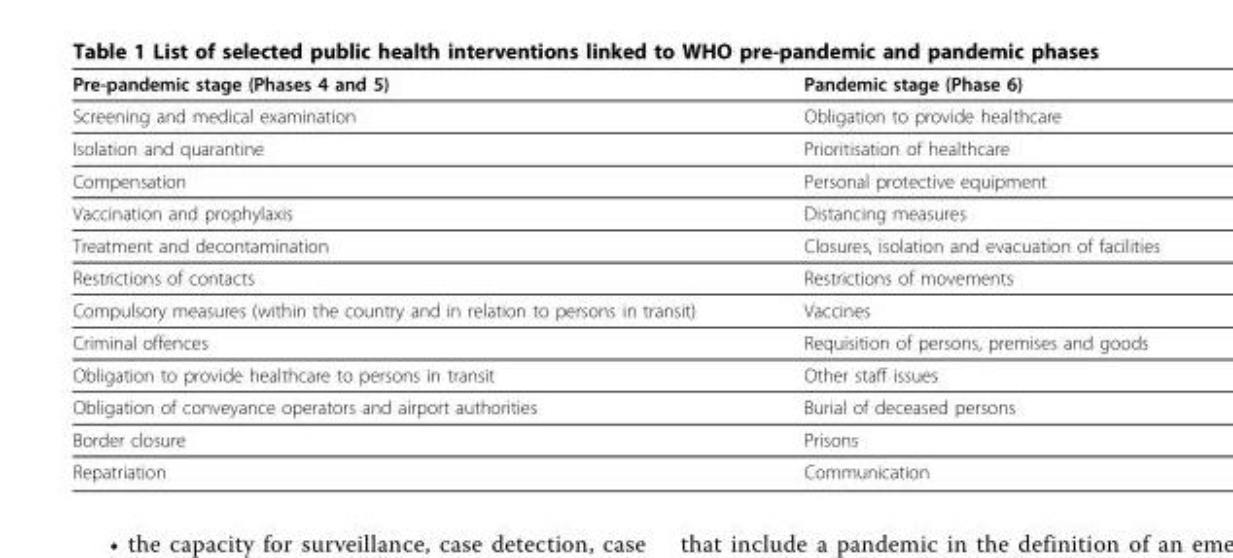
<table><thead><tr><td>Pre-pandemic stage (Phases 4 and 5)</td><td>Pandemic stage (Phase 6)</td></tr></thead><tbody><tr><td>Screening and medical examination</td><td>Obligation to provide healthcare</td></tr><tr><td>Isolation and quarantine</td><td>Prioritisation of healthcare</td></tr><tr><td>Compensation</td><td>Personal protective equipment</td></tr><tr><td>Vaccination and prophylaxis</td><td>Distancing measures</td></tr><tr><td>Treatment and decontamination</td><td>Closures, isolation and evacuation of facilities</td></tr><tr><td>Restrictions of contacts</td><td>Restrictions of movements</td></tr><tr><td>Compulsory measures (within the country and in relation to persons in transit)</td><td>Vaccines</td></tr><tr><td>Criminal offences</td><td>Requisition of persons, premises and goods</td></tr><tr><td>Obligation to provide healthcare to persons in transit</td><td>Other staff issues</td></tr><tr><td>Obligation of conveyance operators and airport authorities</td><td>Burial of deceased persons</td></tr><tr><td>Border closure</td><td>Prisons</td></tr><tr><td>Repatriation</td><td>Communication</td></tr></tbody></table>